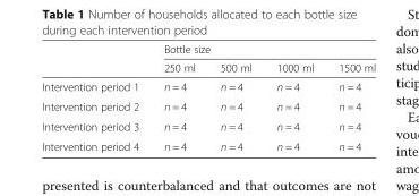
<table><thead><tr><td rowspan="2"></td><td colspan="4">Bottle size</td></tr><tr><td>250 ml</td><td>500 ml</td><td>1000 ml</td><td>1500 ml</td></tr></thead><tbody><tr><td>Intervention period 1</td><td>n = 4</td><td>n = 4</td><td>n = 4</td><td>n = 4</td></tr><tr><td>Intervention period 2</td><td>n = 4</td><td>n = 4</td><td>n = 4</td><td>n = 4</td></tr><tr><td>Intervention period 3</td><td>n = 4</td><td>n = 4</td><td>n = 4</td><td>n = 4</td></tr><tr><td>Intervention period 4</td><td>n = 4</td><td>n = 4</td><td>n = 4</td><td>n = 4</td></tr></tbody></table>